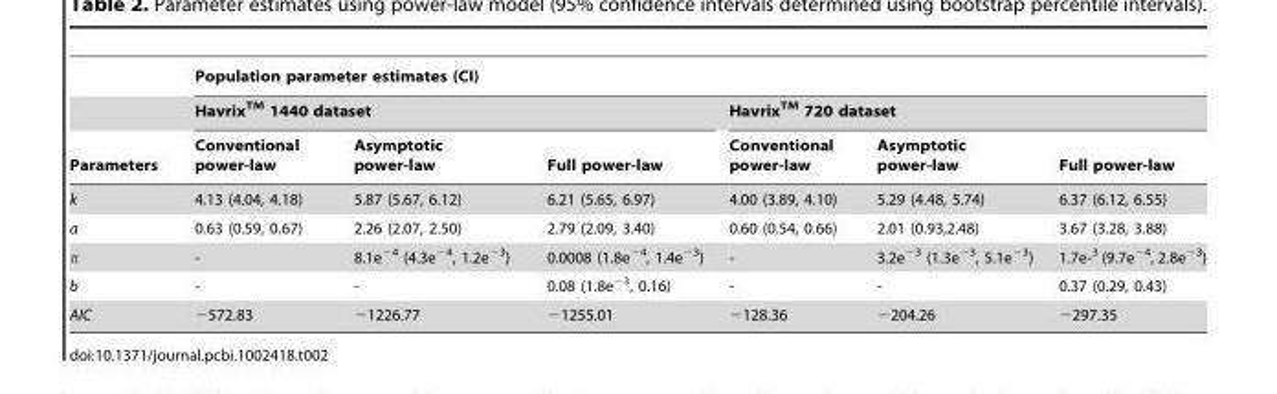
<table><thead><tr><td rowspan="3">Parameters</td><td colspan="6">Population parameter estimates (CI)</td></tr><tr><td colspan="3">HavrixTM 1440 dataset</td><td colspan="3">HavrixTM 720 dataset</td></tr><tr><td>Conventional power-law</td><td>Asymptotic power-law</td><td>Full power-law</td><td>Conventional power-law</td><td>Asymptotic power-law</td><td>Full power-law</td></tr></thead><tbody><tr><td>k</td><td>4.13 (4.04, 4.18)</td><td>5.87 (5.67, 6.12)</td><td>6.21 (5.65, 6.97)</td><td>4.00 (3.89, 4.10)</td><td>5.29 (4.48, 5.74)</td><td>6.37 (6.12, 6.55)</td></tr><tr><td>a</td><td>0.63 (0.59, 0.67)</td><td>2.26 (2.07, 2.50)</td><td>2.79 (2.09, 3.40)</td><td>0.60 (0.54, 0.66)</td><td>2.01 (0.93,2.48)</td><td>3.67 (3.28, 3.88)</td></tr><tr><td>π</td><td>-</td><td>8.1e<sup>−4</sup> (4.3e<sup>−4</sup>, 1.2e<sup>−3</sup>)</td><td>0.0008 (1.8e<sup>−4</sup>, 1.4e<sup>−3</sup>)</td><td>-</td><td>3.2e<sup>−3</sup> (1.3e<sup>−3</sup>, 5.1e<sup>−3</sup>)</td><td>1.7e-<sup>3</sup> (9.7e<sup>−4</sup>, 2.8e<sup>−3</sup>)</td></tr><tr><td>b</td><td>-</td><td>-</td><td>0.08 (1.8e<sup>−3</sup>, 0.16)</td><td>-</td><td>-</td><td>0.37 (0.29, 0.43)</td></tr><tr><td>AIC</td><td>−572.83</td><td>−1226.77</td><td>−1255.01</td><td>−128.36</td><td>−204.26</td><td>−297.35</td></tr></tbody></table>